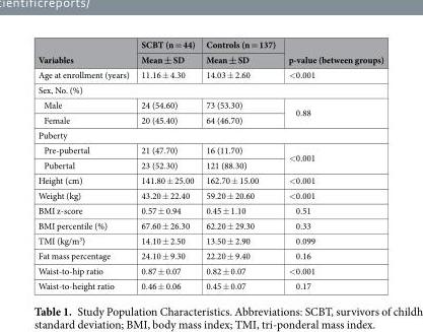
<table><thead><tr><td rowspan="2">Variables</td><td rowspan="2">SCBT (n = 44) Mean ± SD</td><td rowspan="2">Controls (n = 137) Mean ± SD</td><td rowspan="2">p-value (between groups)</td></tr><tr></tr></thead><tbody><tr><td>Age at enrollment (years)</td><td>11.16 ± 4.30</td><td>14.03 ± 2.60</td><td>&lt;0.001</td></tr><tr><td colspan="4">Sex, No. (%)</td></tr><tr><td>Male</td><td>24 (54.60)</td><td>73 (53.30)</td><td rowspan="2">0.88</td></tr><tr><td>Female</td><td>20 (45.40)</td><td>64 (46.70)</td></tr><tr><td colspan="4">Puberty</td></tr><tr><td>Pre-pubertal</td><td>21 (47.70)</td><td>16 (11.70)</td><td rowspan="2">&lt;0.001</td></tr><tr><td>Pubertal</td><td>23 (52.30)</td><td>121 (88.30)</td></tr><tr><td>Height (cm)</td><td>141.80 ± 25.00</td><td>162.70 ± 15.00</td><td>&lt;0.001</td></tr><tr><td>Weight (kg)</td><td>43.20 ± 22.40</td><td>59.20 ± 20.60</td><td>&lt;0.001</td></tr><tr><td>BMI z-score</td><td>0.57 ± 0.94</td><td>0.45 ± 1.10</td><td>0.51</td></tr><tr><td>BMI percentile (%)</td><td>67.60 ± 26.30</td><td>62.20 ± 29.30</td><td>0.33</td></tr><tr><td>TMI (kg/m<sup>3</sup>)</td><td>14.10 ± 2.50</td><td>13.50 ± 2.90</td><td>0.099</td></tr><tr><td>Fat mass percentage</td><td>24.10 ± 9.30</td><td>22.20 ± 9.40</td><td>0.16</td></tr><tr><td>Waist-to-hip ratio</td><td>0.87 ± 0.07</td><td>0.82 ± 0.07</td><td>&lt;0.001</td></tr><tr><td>Waist-to-height ratio</td><td>0.46 ± 0.06</td><td>0.45 ± 0.07</td><td>0.17</td></tr></tbody></table>